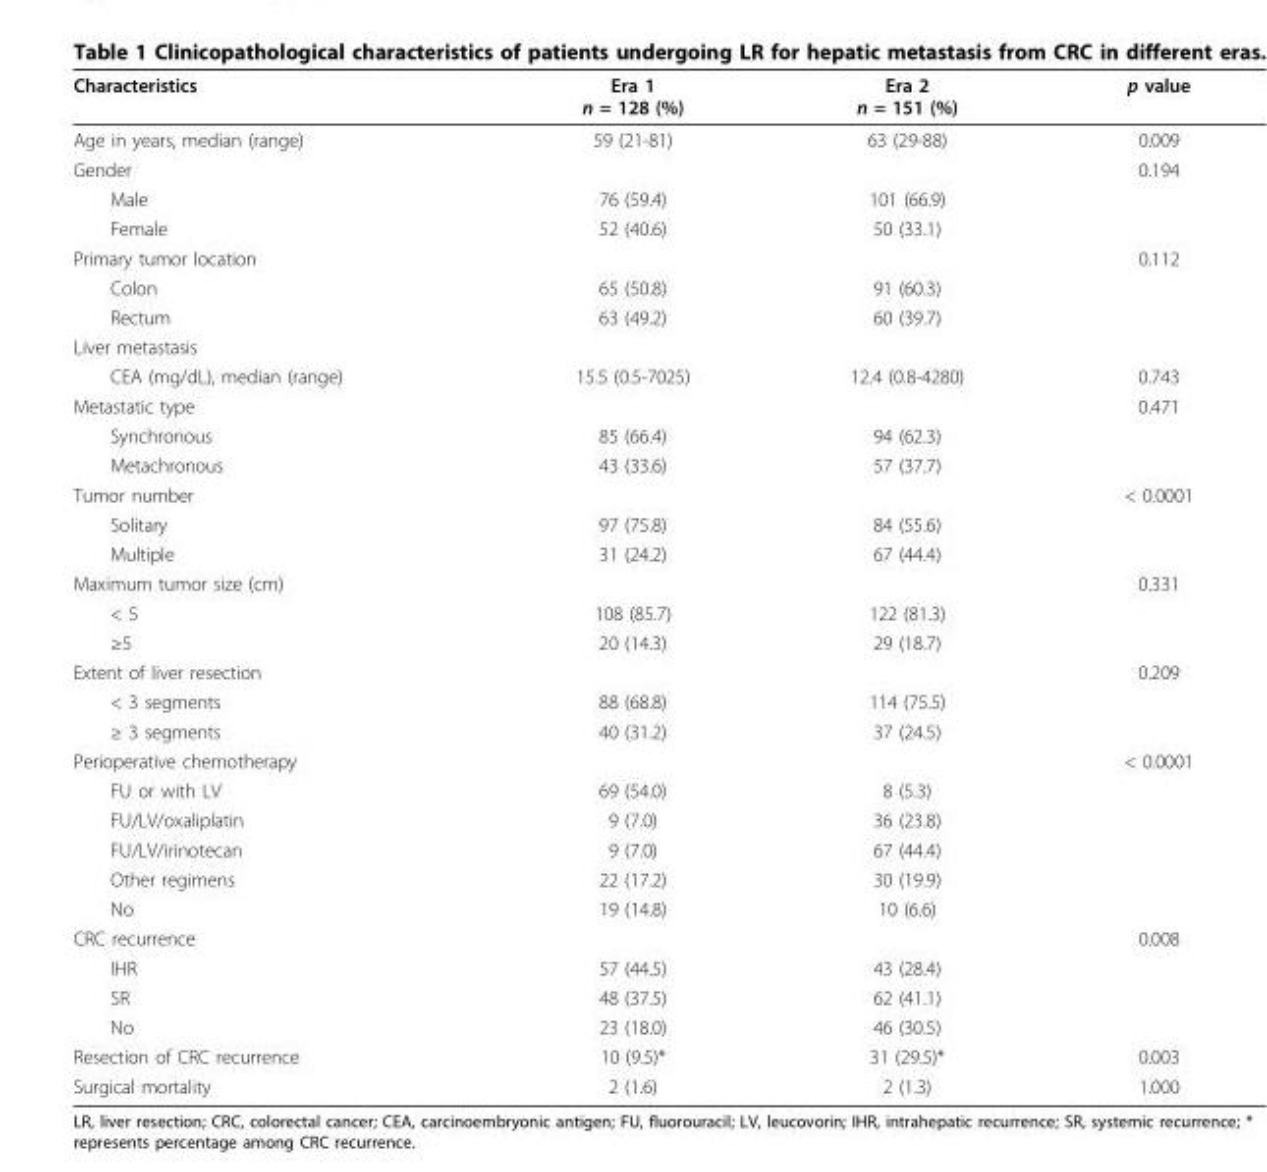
<table><thead><tr><td>Characteristics</td><td>Era 1 n = 128 (%)</td><td>Era 2 n = 151 (%)</td><td>p value</td></tr></thead><tbody><tr><td>Age in years, median (range)</td><td>59 (21-81)</td><td>63 (29-88)</td><td>0.009</td></tr><tr><td>Gender</td><td></td><td></td><td>0.194</td></tr><tr><td>Male</td><td>76 (59.4)</td><td>101 (66.9)</td><td></td></tr><tr><td>Female</td><td>52 (40.6)</td><td>50 (33.1)</td><td></td></tr><tr><td>Primary tumor location</td><td></td><td></td><td>0.112</td></tr><tr><td>Colon</td><td>65 (50.8)</td><td>91 (60.3)</td><td></td></tr><tr><td>Rectum</td><td>63 (49.2)</td><td>60 (39.7)</td><td></td></tr><tr><td colspan="4">Liver metastasis</td></tr><tr><td>CEA (mg/dL), median (range)</td><td>15.5 (0.5-7025)</td><td>12.4 (0.8-4280)</td><td>0.743</td></tr><tr><td>Metastatic type</td><td></td><td></td><td>0.471</td></tr><tr><td>Synchronous</td><td>85 (66.4)</td><td>94 (62.3)</td><td></td></tr><tr><td>Metachronous</td><td>43 (33.6)</td><td>57 (37.7)</td><td></td></tr><tr><td>Tumor number</td><td></td><td></td><td>&lt; 0.0001</td></tr><tr><td>Solitary</td><td>97 (75.8)</td><td>84 (55.6)</td><td></td></tr><tr><td>Multiple</td><td>31 (24.2)</td><td>67 (44.4)</td><td></td></tr><tr><td>Maximum tumor size (cm)</td><td></td><td></td><td>0.331</td></tr><tr><td>&lt; 5</td><td>108 (85.7)</td><td>122 (81.3)</td><td></td></tr><tr><td>≥5</td><td>20 (14.3)</td><td>29 (18.7)</td><td></td></tr><tr><td>Extent of liver resection</td><td></td><td></td><td>0.209</td></tr><tr><td>&lt; 3 segments</td><td>88 (68.8)</td><td>114 (75.5)</td><td></td></tr><tr><td>≥ 3 segments</td><td>40 (31.2)</td><td>37 (24.5)</td><td></td></tr><tr><td>Perioperative chemotherapy</td><td></td><td></td><td>&lt; 0.0001</td></tr><tr><td>FU or with LV</td><td>69 (54.0)</td><td>8 (5.3)</td><td></td></tr><tr><td>FU/LV/oxaliplatin</td><td>9 (7.0)</td><td>36 (23.8)</td><td></td></tr><tr><td>FU/LV/irinotecan</td><td>9 (7.0)</td><td>67 (44.4)</td><td></td></tr><tr><td>Other regimens</td><td>22 (17.2)</td><td>30 (19.9)</td><td></td></tr><tr><td>No</td><td>19 (14.8)</td><td>10 (6.6)</td><td></td></tr><tr><td>CRC recurrence</td><td></td><td></td><td>0.008</td></tr><tr><td>IHR</td><td>57 (44.5)</td><td>43 (28.4)</td><td></td></tr><tr><td>SR</td><td>48 (37.5)</td><td>62 (41.1)</td><td></td></tr><tr><td>No</td><td>23 (18.0)</td><td>46 (30.5)</td><td></td></tr><tr><td>Resection of CRC recurrence</td><td>10 (9.5)*</td><td>31 (29.5)*</td><td>0.003</td></tr><tr><td>Surgical mortality</td><td>2 (1.6)</td><td>2 (1.3)</td><td>1.000</td></tr></tbody></table>